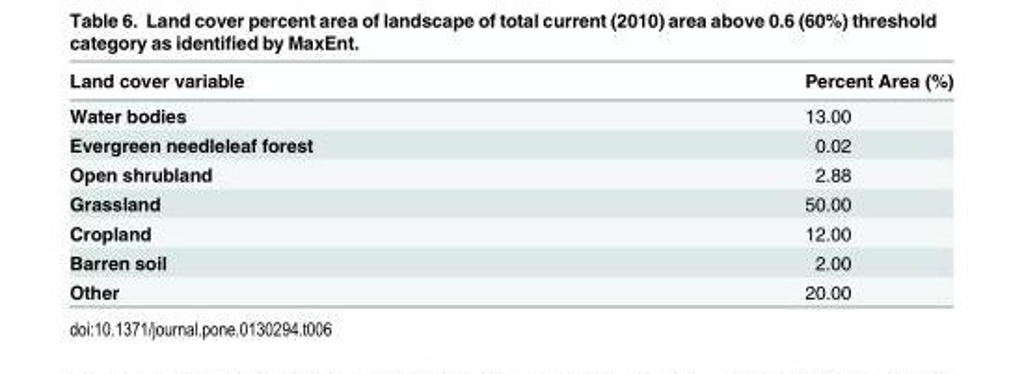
<table><thead><tr><td>Land cover variable</td><td>Percent Area (%)</td></tr></thead><tbody><tr><td>Water bodies</td><td>13.00</td></tr><tr><td>Evergreen needleleaf forest</td><td>0.02</td></tr><tr><td>Open shrubland</td><td>2.88</td></tr><tr><td>Grassland</td><td>50.00</td></tr><tr><td>Cropland</td><td>12.00</td></tr><tr><td>Barren soil</td><td>2.00</td></tr><tr><td>Other</td><td>20.00</td></tr></tbody></table>